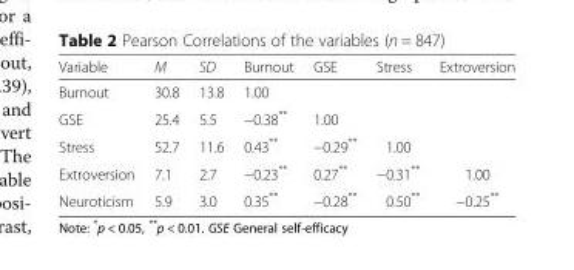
<table><thead><tr><td>Variable</td><td>M</td><td>SD</td><td>Burnout</td><td>GSE</td><td>Stress</td><td>Extroversion</td></tr></thead><tbody><tr><td>Burnout</td><td>30.8</td><td>13.8</td><td>1.00</td><td></td><td></td><td></td></tr><tr><td>GSE</td><td>25.4</td><td>5.5</td><td>−0.38**</td><td>1.00</td><td></td><td></td></tr><tr><td>Stress</td><td>52.7</td><td>11.6</td><td>0.43**</td><td>−0.29**</td><td>1.00</td><td></td></tr><tr><td>Extroversion</td><td>7.1</td><td>2.7</td><td>−0.23**</td><td>0.27**</td><td>−0.31**</td><td>1.00</td></tr><tr><td>Neuroticism</td><td>5.9</td><td>3.0</td><td>0.35**</td><td>−0.28**</td><td>0.50**</td><td>−0.25**</td></tr></tbody></table>